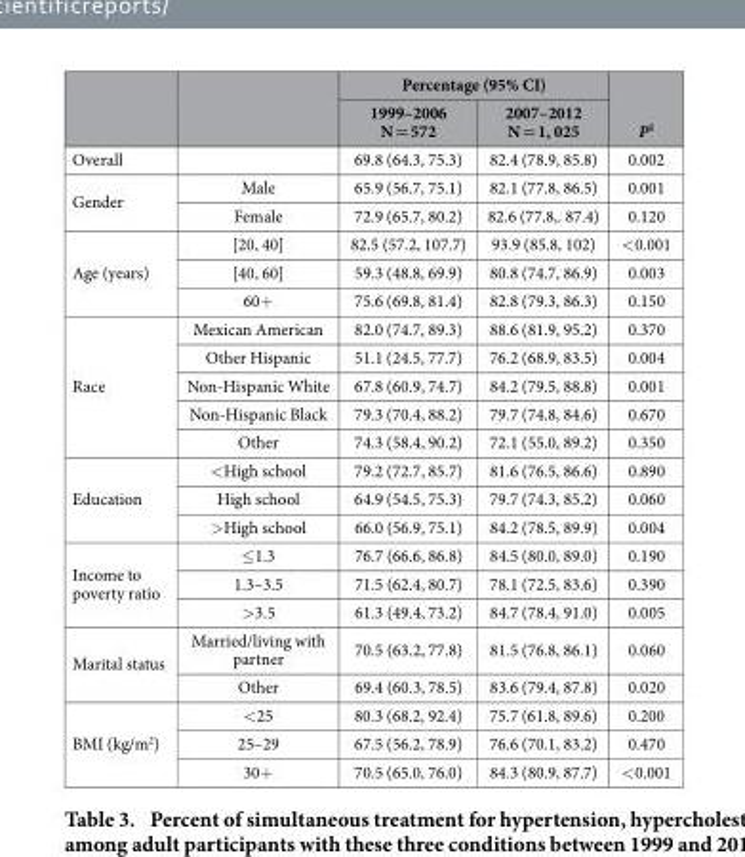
<table><thead><tr><td rowspan="2"></td><td rowspan="2"></td><td colspan="2">Percentage (95% CI)</td><td rowspan="2">P<sup>1</sup></td></tr><tr><td>1999–2006 N = 572</td><td>2007–2012 N = 1, 025</td></tr></thead><tbody><tr><td>Overall</td><td></td><td>69.8 (64.3, 75.3)</td><td>82.4 (78.9, 85.8)</td><td>0.002</td></tr><tr><td rowspan="2">Gender</td><td>Male</td><td>65.9 (56.7, 75.1)</td><td>82.1 (77.8, 86.5)</td><td>0.001</td></tr><tr><td>Female</td><td>72.9 (65.7, 80.2)</td><td>82.6 (77.8,. 87.4)</td><td>0.120</td></tr><tr><td rowspan="3">Age (years)</td><td>[20, 40]</td><td>82.5 (57.2, 107.7)</td><td>93.9 (85.8, 102)</td><td>&lt; 0.001</td></tr><tr><td>[40, 60]</td><td>59.3 (48.8, 69.9)</td><td>80.8 (74.7, 86.9)</td><td>0.003</td></tr><tr><td>60+</td><td>75.6 (69.8, 81.4)</td><td>82.8 (79.3, 86.3)</td><td>0.150</td></tr><tr><td rowspan="5">Race</td><td>Mexican American</td><td>82.0 (74.7, 89.3)</td><td>88.6 (81.9, 95.2)</td><td>0.370</td></tr><tr><td>Other Hispanic</td><td>51.1 (24.5, 77.7)</td><td>76.2 (68.9, 83.5)</td><td>0.004</td></tr><tr><td>Non-Hispanic White</td><td>67.8 (60.9, 74.7)</td><td>84.2 (79.5, 88.8)</td><td>0.001</td></tr><tr><td>Non-Hispanic Black</td><td>79.3 (70.4, 88.2)</td><td>79.7 (74.8, 84.6)</td><td>0.670</td></tr><tr><td>Other</td><td>74.3 (58.4, 90.2)</td><td>72.1 (55.0, 89.2)</td><td>0.350</td></tr><tr><td rowspan="3">Education</td><td>&lt; High school</td><td>79.2 (72.7, 85.7)</td><td>81.6 (76.5, 86.6)</td><td>0.890</td></tr><tr><td>High school</td><td>64.9 (54.5, 75.3)</td><td>79.7 (74.3, 85.2)</td><td>0.060</td></tr><tr><td>&gt; High school</td><td>66.0 (56.9, 75.1)</td><td>84.2 (78.5, 89.9)</td><td>0.004</td></tr><tr><td rowspan="3">Income to poverty ratio</td><td>≤ 1.3</td><td>76.7 (66.6, 86.8)</td><td>84.5 (80.0, 89.0)</td><td>0.190</td></tr><tr><td>1.3–3.5</td><td>71.5 (62.4, 80.7)</td><td>78.1 (72.5, 83.6)</td><td>0.390</td></tr><tr><td>&gt; 3.5</td><td>61.3 (49.4, 73.2)</td><td>84.7 (78.4, 91.0)</td><td>0.005</td></tr><tr><td rowspan="2">Marital status</td><td>Married/living with partner</td><td>70.5 (63.2, 77.8)</td><td>81.5 (76.8, 86.1)</td><td>0.060</td></tr><tr><td>Other</td><td>69.4 (60.3, 78.5)</td><td>83.6 (79.4, 87.8)</td><td>0.020</td></tr><tr><td rowspan="3">BMI (kg/m<sup>2</sup>)</td><td>&lt; 25</td><td>80.3 (68.2, 92.4)</td><td>75.7 (61.8, 89.6)</td><td>0.200</td></tr><tr><td>25–29</td><td>67.5 (56.2, 78.9)</td><td>76.6 (70.1, 83.2)</td><td>0.470</td></tr><tr><td>30+</td><td>70.5 (65.0, 76.0)</td><td>84.3 (80.9, 87.7)</td><td>&lt; 0.001</td></tr></tbody></table>